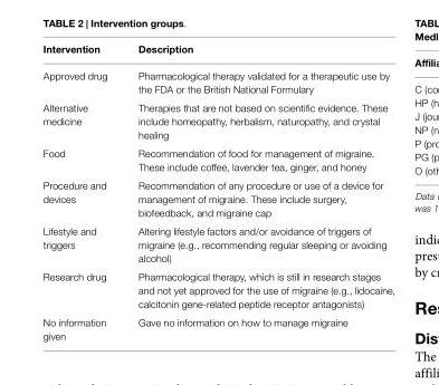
<table><thead><tr><td>Intervention</td><td>Description</td></tr></thead><tbody><tr><td>Approved drug</td><td>Pharmacological therapy validated for a therapeutic use by the FDA or the British National Formulary</td></tr><tr><td>Alternative medicine</td><td>Therapies that are not based on scientific evidence. These include homeopathy, herbalism, naturopathy, and crystal healing</td></tr><tr><td>Food</td><td>Recommendation of food for management of migraine. These include coffee, lavender tea, ginger, and honey</td></tr><tr><td>Procedure and devices</td><td>Recommendation of any procedure or use of a device for management of migraine. These include surgery, biofeedback, and migraine cap</td></tr><tr><td>Lifestyle and triggers</td><td>Altering lifestyle factors and/or avoidance of triggers of migraine (e.g., recommending regular sleeping or avoiding alcohol)</td></tr><tr><td>Research drug</td><td>Pharmacological therapy, which is still in research stages and not yet approved for the use of migraine (e.g., lidocaine, calcitonin gene-related peptide receptor antagonists)</td></tr><tr><td>No information given</td><td>Gave no information on how to manage migraine</td></tr></tbody></table>